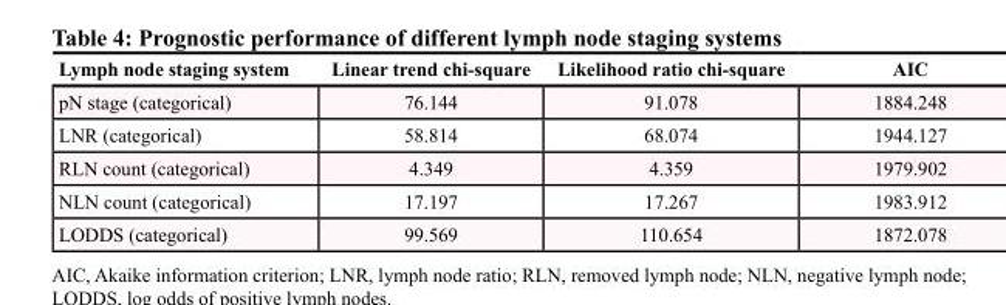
<table><thead><tr><td>Lymph node staging system</td><td>Linear trend chi-square</td><td>Likelihood ratio chi-square</td><td>AIC</td></tr></thead><tbody><tr><td>pN stage (categorical)</td><td>76.144</td><td>91.078</td><td>1884.248</td></tr><tr><td>LNR (categorical)</td><td>58.814</td><td>68.074</td><td>1944.127</td></tr><tr><td>RLN count (categorical)</td><td>4.349</td><td>4.359</td><td>1979.902</td></tr><tr><td>NLN count (categorical)</td><td>17.197</td><td>17.267</td><td>1983.912</td></tr><tr><td>LODDS (categorical)</td><td>99.569</td><td>110.654</td><td>1872.078</td></tr></tbody></table>